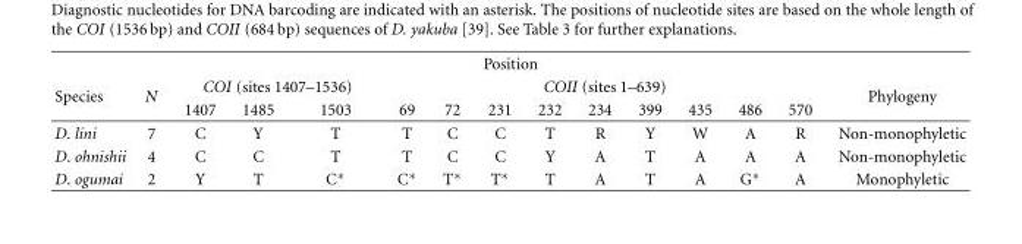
<table><tbody><tr><td colspan="15">Position</td></tr><tr><td rowspan="2">Species</td><td rowspan="2">N</td><td colspan="3">COI (sites 1407–1536)</td><td colspan="9">COII (sites 1–639)</td><td rowspan="2">Phylogeny</td></tr><tr><td>1407</td><td>1485</td><td>1503</td><td>69</td><td>72</td><td>231</td><td>232</td><td>234</td><td>399</td><td>435</td><td>486</td><td>570</td></tr><tr><td>D. lini</td><td>7</td><td>C</td><td>Y</td><td>T</td><td>T</td><td>C</td><td>C</td><td>T</td><td>R</td><td>Y</td><td>W</td><td>A</td><td>R</td><td>Non-monophyletic</td></tr><tr><td>D. ohnishii</td><td>4</td><td>C</td><td>C</td><td>T</td><td>T</td><td>C</td><td>C</td><td>Y</td><td>A</td><td>T</td><td>A</td><td>A</td><td>A</td><td>Non-monophyletic</td></tr><tr><td>D. ogumai</td><td>2</td><td>Y</td><td>T</td><td>C∗</td><td>C∗</td><td>T∗</td><td>T∗</td><td>T</td><td>A</td><td>T</td><td>A</td><td>G∗</td><td>A</td><td>Monophyletic</td></tr></tbody></table>